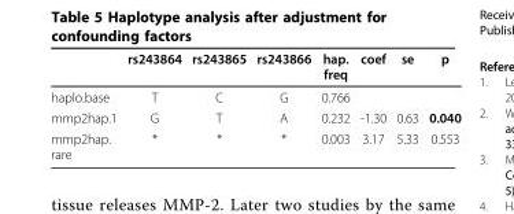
<table><thead><tr><td></td><td>rs243864</td><td>rs243865</td><td>rs243866</td><td>hap. freq</td><td>coef</td><td>se</td><td>p</td></tr></thead><tbody><tr><td>haplo.base</td><td>T</td><td>C</td><td>G</td><td>0.766</td><td></td><td></td><td></td></tr><tr><td>mmp2hap.1</td><td>G</td><td>T</td><td>A</td><td>0.232</td><td>-1.30</td><td>0.63</td><td>0.040</td></tr><tr><td>mmp2hap. rare</td><td>*</td><td>*</td><td>*</td><td>0.003</td><td>3.17</td><td>5.33</td><td>0.553</td></tr></tbody></table>